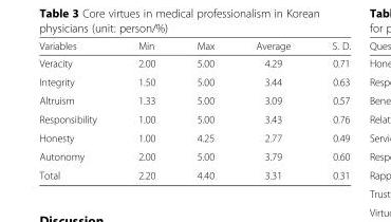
<table><thead><tr><td>Variables</td><td>Min</td><td>Max</td><td>Average</td><td>S. D.</td></tr></thead><tbody><tr><td>Veracity</td><td>2.00</td><td>5.00</td><td>4.29</td><td>0.71</td></tr><tr><td>Integrity</td><td>1.50</td><td>5.00</td><td>3.44</td><td>0.63</td></tr><tr><td>Altruism</td><td>1.33</td><td>5.00</td><td>3.09</td><td>0.57</td></tr><tr><td>Responsibility</td><td>1.00</td><td>5.00</td><td>3.43</td><td>0.76</td></tr><tr><td>Honesty</td><td>1.00</td><td>4.25</td><td>2.77</td><td>0.49</td></tr><tr><td>Autonomy</td><td>2.00</td><td>5.00</td><td>3.79</td><td>0.60</td></tr><tr><td>Total</td><td>2.20</td><td>4.40</td><td>3.31</td><td>0.31</td></tr></tbody></table>